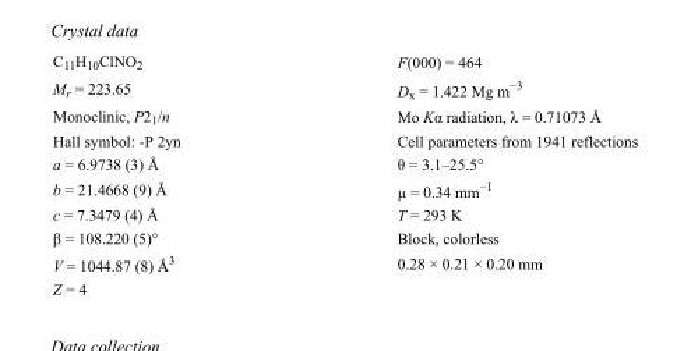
<table><tbody><tr><td>C<sub>11</sub>H<sub>10</sub>ClNO<sub>2</sub></td><td>F(000) = 464</td></tr><tr><td>M<sub>r</sub> = 223.65</td><td>D<sub>x</sub> = 1.422 Mg m<sup>−3</sup></td></tr><tr><td>Monoclinic, P2<sub>1</sub>/n</td><td>Mo Kα radiation, λ = 0.71073 Å</td></tr><tr><td>Hall symbol: -P 2yn</td><td>Cell parameters from 1941 reflections</td></tr><tr><td>a = 6.9738 (3) Å</td><td>θ = 3.1–25.5°</td></tr><tr><td>b = 21.4668 (9) Å</td><td>µ = 0.34 mm<sup>−1</sup></td></tr><tr><td>c = 7.3479 (4) Å</td><td>T = 293 K</td></tr><tr><td>β = 108.220 (5)°</td><td>Block, colorless</td></tr><tr><td>V = 1044.87 (8) Å<sup>3</sup></td><td>0.28 × 0.21 × 0.20 mm</td></tr><tr><td>Z = 4</td><td></td></tr></tbody></table>